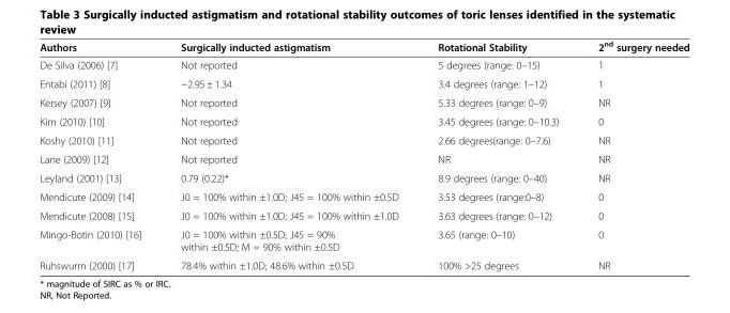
<table><thead><tr><td>Authors</td><td>Surgically inducted astigmatism</td><td>Rotational Stability</td><td>2<sup>nd</sup> surgery needed</td></tr></thead><tbody><tr><td>De Silva (2006) [7]</td><td>Not reported</td><td>5 degrees (range: 0–15)</td><td>1</td></tr><tr><td>Entabi (2011) [8]</td><td>−2.95 ± 1.34</td><td>3.4 degrees (range: 1–12)</td><td>1</td></tr><tr><td>Kersey (2007) [9]</td><td>Not reported</td><td>5.33 degrees (range: 0–9)</td><td>NR</td></tr><tr><td>Kim (2010) [10]</td><td>Not reported</td><td>3.45 degrees (range: 0–10.3)</td><td>0</td></tr><tr><td>Koshy (2010) [11]</td><td>Not reported</td><td>2.66 degrees(range: 0–7.6)</td><td>NR</td></tr><tr><td>Lane (2009) [12]</td><td>Not reported</td><td>NR</td><td>NR</td></tr><tr><td>Leyland (2001) [13]</td><td>0.79 (0.22)*</td><td>8.9 degrees (range: 0–40)</td><td>NR</td></tr><tr><td>Mendicute (2009) [14]</td><td>J0 = 100% within ±1.0D; J45 = 100% within ±0.5D</td><td>3.53 degrees (range:0–8)</td><td>0</td></tr><tr><td>Mendicute (2008) [15]</td><td>J0 = 100% within ±1.0D; J45 = 100% within ±1.0D</td><td>3.63 degrees (range: 0–12)</td><td>0</td></tr><tr><td>Mingo-Botin (2010) [16]</td><td>J0 = 100% within ±0.5D; J45 = 90% within ±0.5D; M = 90% within ±0.5D</td><td>3.65 (range: 0–10)</td><td>0</td></tr><tr><td>Ruhswurm (2000) [17]</td><td>78.4% within ±1.0D; 48.6% within ±0.5D</td><td>100% &gt;25 degrees</td><td>NR</td></tr></tbody></table>